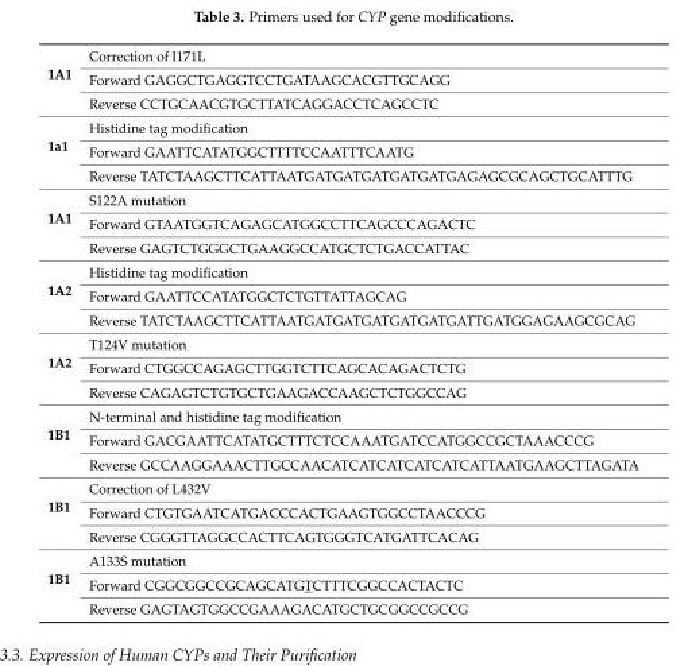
<table><tbody><tr><td rowspan="3">1A1</td><td>Correction of I171L</td></tr><tr><td>Forward GAGGCTGAGGTCCTGATAAGCACGTTGCAGG</td></tr><tr><td>Reverse CCTGCAACGTGCTTATCAGGACCTCAGCCTC</td></tr><tr><td rowspan="3">1a1</td><td>Histidine tag modification</td></tr><tr><td>Forward GAATTCATATGGCTTTTCCAATTTCAATG</td></tr><tr><td>Reverse TATCTAAGCTTCATTAATGATGATGATGATGATGAGAGCGCAGCTGCATTTG</td></tr><tr><td rowspan="3">1A1</td><td>S122A mutation</td></tr><tr><td>Forward GTAATGGTCAGAGCATGGCCTTCAGCCCAGACTC</td></tr><tr><td>Reverse GAGTCTGGGCTGAAGGCCATGCTCTGACCATTAC</td></tr><tr><td rowspan="3">1A2</td><td>Histidine tag modification</td></tr><tr><td>Forward GAATTCCATATGGCTCTGTTATTAGCAG</td></tr><tr><td>Reverse TATCTAAGCTTCATTAATGATGATGATGATGATGATTGATGGAGAAGCGCAG</td></tr><tr><td rowspan="3">1A2</td><td>T124V mutation</td></tr><tr><td>Forward CTGGCCAGAGCTTGGTCTTCAGCACAGACTCTG</td></tr><tr><td>Reverse CAGAGTCTGTGCTGAAGACCAAGCTCTGGCCAG</td></tr><tr><td rowspan="3">1B1</td><td>N-terminal and histidine tag modification</td></tr><tr><td>Forward GACGAATTCATATGCTTTCTCCAAATGATCCATGGCCGCTAAACCCG</td></tr><tr><td>Reverse GCCAAGGAAACTTGCCAACATCATCATCATCATCATTAATGAAGCTTAGATA</td></tr><tr><td rowspan="3">1B1</td><td>Correction of L432V</td></tr><tr><td>Forward CTGTGAATCATGACCCACTGAAGTGGCCTAACCCG</td></tr><tr><td>Reverse CGGGTTAGGCCACTTCAGTGGGTCATGATTCACAG</td></tr><tr><td rowspan="3">1B1</td><td>A133S mutation</td></tr><tr><td>Forward CGGCGGCCGCAGCATGTCTTTCGGCCACTACTC</td></tr><tr><td>Reverse GAGTAGTGGCCGAAAGACATGCTGCGGCCGCCG</td></tr></tbody></table>